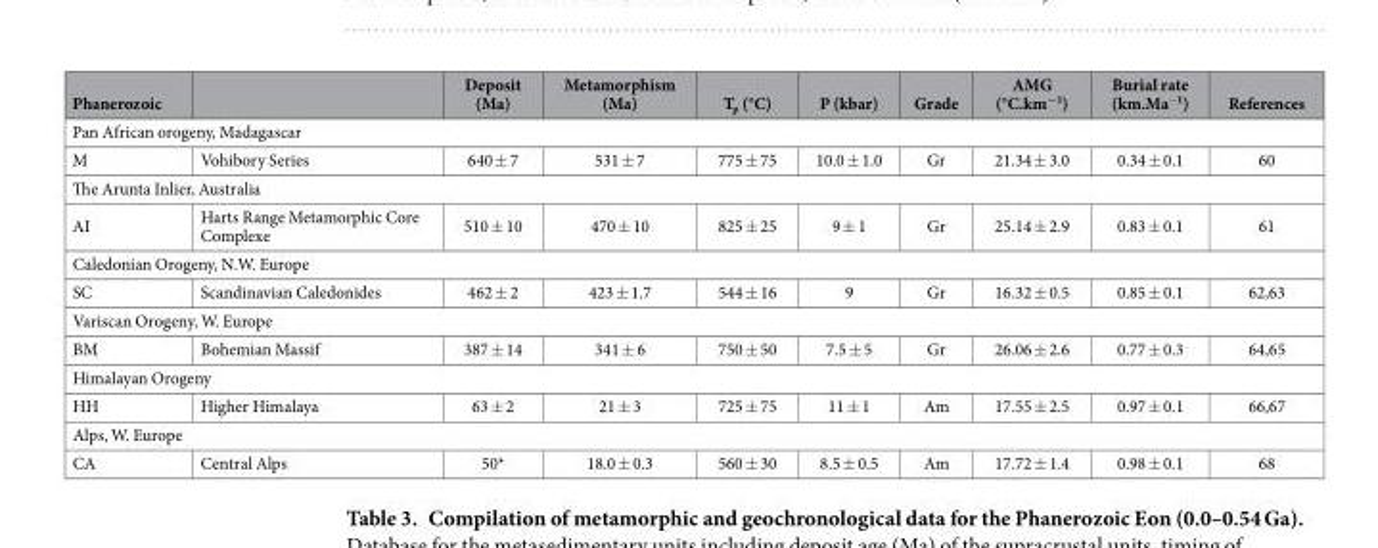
<table><thead><tr><td>Phanerozoic</td><td></td><td>Deposit (Ma)</td><td>Metamorphism (Ma)</td><td>T<sub>p</sub> (°C)</td><td>P (kbar)</td><td>Grade</td><td>AMG (°C.km<sup>−1</sup>)</td><td>Burial rate (km.Ma<sup>−1</sup>)</td><td>References</td></tr></thead><tbody><tr><td colspan="10">Pan African orogeny, Madagascar</td></tr><tr><td>M</td><td>Vohibory Series</td><td>640 ± 7</td><td>531 ± 7</td><td>775 ± 75</td><td>10.0 ± 1.0</td><td>Gr</td><td>21.34 ± 3.0</td><td>0.34 ± 0.1</td><td>60</td></tr><tr><td colspan="10">The Arunta Inlier, Australia</td></tr><tr><td>AI</td><td>Harts Range Metamorphic Core Complexe</td><td>510 ± 10</td><td>470 ± 10</td><td>825 ± 25</td><td>9 ± 1</td><td>Gr</td><td>25.14 ± 2.9</td><td>0.83 ± 0.1</td><td>61</td></tr><tr><td colspan="10">Caledonian Orogeny, N.W. Europe</td></tr><tr><td>SC</td><td>Scandinavian Caledonides</td><td>462 ± 2</td><td>423 ± 1.7</td><td>544 ± 16</td><td>9</td><td>Gr</td><td>16.32 ± 0.5</td><td>0.85 ± 0.1</td><td>62,63</td></tr><tr><td colspan="10">Variscan Orogeny, W. Europe</td></tr><tr><td>BM</td><td>Bohemian Massif</td><td>387 ± 14</td><td>341 ± 6</td><td>750 ± 50</td><td>7.5 ± 5</td><td>Gr</td><td>26.06 ± 2.6</td><td>0.77 ± 0.3</td><td>64,65</td></tr><tr><td colspan="10">Himalayan Orogeny</td></tr><tr><td>HH</td><td>Higher Himalaya</td><td>63 ± 2</td><td>21 ± 3</td><td>725 ± 75</td><td>11 ± 1</td><td>Am</td><td>17.55 ± 2.5</td><td>0.97 ± 0.1</td><td>66,67</td></tr><tr><td colspan="10">Alps, W. Europe</td></tr><tr><td>CA</td><td>Central Alps</td><td>50*</td><td>18.0 ± 0.3</td><td>560 ± 30</td><td>8.5 ± 0.5</td><td>Am</td><td>17.72 ± 1.4</td><td>0.98 ± 0.1</td><td>68</td></tr></tbody></table>